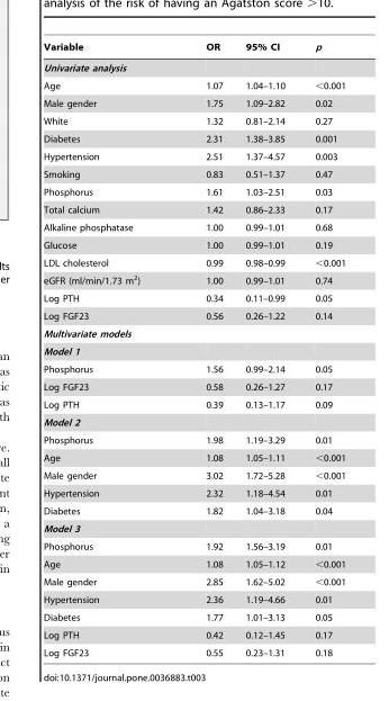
<table><thead><tr><td>Variable</td><td>OR</td><td>95% CI</td><td>p</td></tr></thead><tbody><tr><td colspan="4">Univariate analysis</td></tr><tr><td>Age</td><td>1.07</td><td>1.04–1.10</td><td>&lt;0.001</td></tr><tr><td>Male gender</td><td>1.75</td><td>1.09–2.82</td><td>0.02</td></tr><tr><td>White</td><td>1.32</td><td>0.81–2.14</td><td>0.27</td></tr><tr><td>Diabetes</td><td>2.31</td><td>1.38–3.85</td><td>0.001</td></tr><tr><td>Hypertension</td><td>2.51</td><td>1.37–4.57</td><td>0.003</td></tr><tr><td>Smoking</td><td>0.83</td><td>0.51–1.37</td><td>0.47</td></tr><tr><td>Phosphorus</td><td>1.61</td><td>1.03–2.51</td><td>0.03</td></tr><tr><td>Total calcium</td><td>1.42</td><td>0.86–2.33</td><td>0.17</td></tr><tr><td>Alkaline phosphatase</td><td>1.00</td><td>0.99–1.01</td><td>0.68</td></tr><tr><td>Glucose</td><td>1.00</td><td>0.99–1.01</td><td>0.19</td></tr><tr><td>LDL cholesterol</td><td>0.99</td><td>0.98–0.99</td><td>&lt;0.001</td></tr><tr><td>eGFR (ml/min/1.73 m<sup>2</sup>)</td><td>1.00</td><td>0.99–1.01</td><td>0.74</td></tr><tr><td>Log PTH</td><td>0.34</td><td>0.11–0.99</td><td>0.05</td></tr><tr><td>Log FGF23</td><td>0.56</td><td>0.26–1.22</td><td>0.14</td></tr><tr><td colspan="4">Multivariate models</td></tr><tr><td colspan="4">Model 1</td></tr><tr><td>Phosphorus</td><td>1.56</td><td>0.99–2.14</td><td>0.05</td></tr><tr><td>Log FGF23</td><td>0.58</td><td>0.26–1.27</td><td>0.17</td></tr><tr><td>Log PTH</td><td>0.39</td><td>0.13–1.17</td><td>0.09</td></tr><tr><td colspan="4">Model 2</td></tr><tr><td>Phosphorus</td><td>1.98</td><td>1.19–3.29</td><td>0.01</td></tr><tr><td>Age</td><td>1.08</td><td>1.05–1.11</td><td>&lt;0.001</td></tr><tr><td>Male gender</td><td>3.02</td><td>1.72–5.28</td><td>&lt;0.001</td></tr><tr><td>Hypertension</td><td>2.32</td><td>1.18–4.54</td><td>0.01</td></tr><tr><td>Diabetes</td><td>1.82</td><td>1.04–3.18</td><td>0.04</td></tr><tr><td colspan="4">Model 3</td></tr><tr><td>Phosphorus</td><td>1.92</td><td>1.56–3.19</td><td>0.01</td></tr><tr><td>Age</td><td>1.08</td><td>1.05–1.12</td><td>&lt;0.001</td></tr><tr><td>Male gender</td><td>2.85</td><td>1.62–5.02</td><td>&lt;0.001</td></tr><tr><td>Hypertension</td><td>2.36</td><td>1.19–4.66</td><td>0.01</td></tr><tr><td>Diabetes</td><td>1.77</td><td>1.01–3.13</td><td>0.05</td></tr><tr><td>Log PTH</td><td>0.42</td><td>0.12–1.45</td><td>0.17</td></tr><tr><td>Log FGF23</td><td>0.55</td><td>0.23–1.31</td><td>0.18</td></tr></tbody></table>